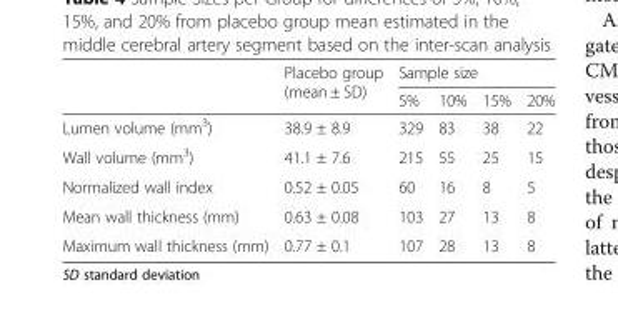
<table><thead><tr><td rowspan="2"></td><td rowspan="2">Placebo group (mean ± SD)</td><td colspan="4">Sample size</td></tr><tr><td>5%</td><td>10%</td><td>15%</td><td>20%</td></tr></thead><tbody><tr><td>Lumen volume (mm<sup>3</sup>)</td><td>38.9 ± 8.9</td><td>329</td><td>83</td><td>38</td><td>22</td></tr><tr><td>Wall volume (mm<sup>3</sup>)</td><td>41.1 ± 7.6</td><td>215</td><td>55</td><td>25</td><td>15</td></tr><tr><td>Normalized wall index</td><td>0.52 ± 0.05</td><td>60</td><td>16</td><td>8</td><td>5</td></tr><tr><td>Mean wall thickness (mm)</td><td>0.63 ± 0.08</td><td>103</td><td>27</td><td>13</td><td>8</td></tr><tr><td>Maximum wall thickness (mm)</td><td>0.77 ± 0.1</td><td>107</td><td>28</td><td>13</td><td>8</td></tr></tbody></table>